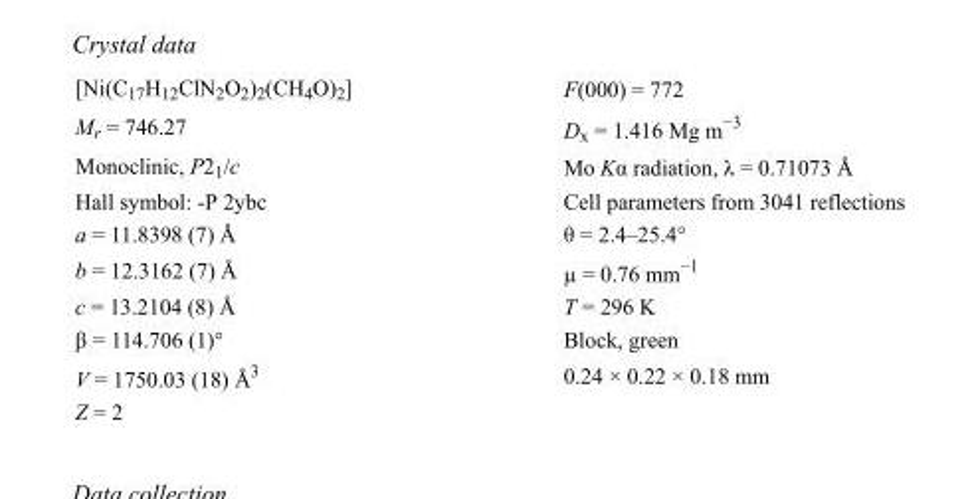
<table><tbody><tr><td>[Ni(C<sub>17</sub>H<sub>12</sub>ClN<sub>2</sub>O<sub>2</sub>)<sub>2</sub>(CH<sub>4</sub>O)<sub>2</sub>]</td><td>F(000) = 772</td></tr><tr><td>M<sub>r</sub> = 746.27</td><td>D<sub>x</sub> = 1.416 Mg m<sup>−3</sup></td></tr><tr><td>Monoclinic, P2<sub>1</sub>/c</td><td>Mo Kα radiation, λ = 0.71073 Å</td></tr><tr><td>Hall symbol: -P 2ybc</td><td>Cell parameters from 3041 reflections</td></tr><tr><td>a = 11.8398 (7) Å</td><td>θ = 2.4–25.4°</td></tr><tr><td>b = 12.3162 (7) Å</td><td>µ = 0.76 mm<sup>−1</sup></td></tr><tr><td>c = 13.2104 (8) Å</td><td>T = 296 K</td></tr><tr><td>β = 114.706 (1)°</td><td>Block, green</td></tr><tr><td>V = 1750.03 (18) Å<sup>3</sup></td><td>0.24 × 0.22 × 0.18 mm</td></tr><tr><td>Z = 2</td><td></td></tr></tbody></table>